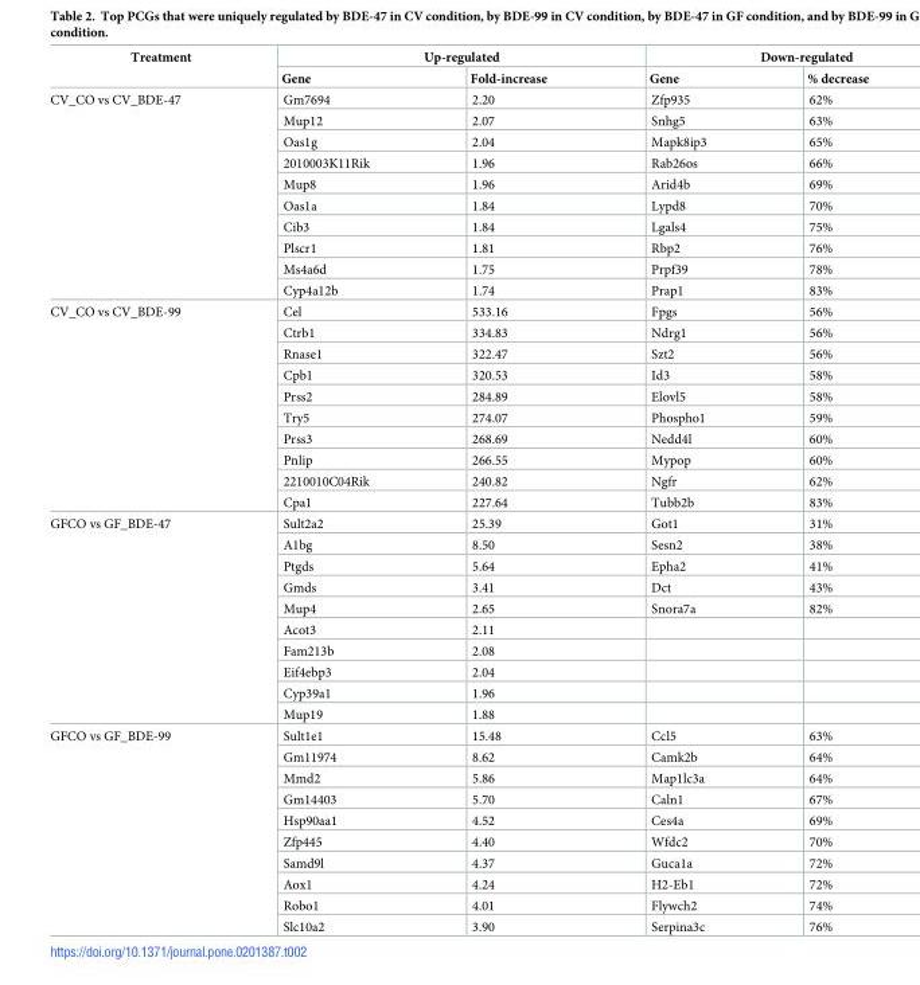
<table><thead><tr><td rowspan="2">Treatment</td><td colspan="2">Up-regulated</td><td colspan="2">Down-regulated</td></tr><tr><td>Gene</td><td>Fold-increase</td><td>Gene</td><td>% decrease</td></tr></thead><tbody><tr><td rowspan="10">CV_CO vs CV_BDE-47</td><td>Gm7694</td><td>2.20</td><td>Zfp935</td><td>62%</td></tr><tr><td>Mup12</td><td>2.07</td><td>Snhg5</td><td>63%</td></tr><tr><td>Oas1g</td><td>2.04</td><td>Mapk8ip3</td><td>65%</td></tr><tr><td>2010003K11Rik</td><td>1.96</td><td>Rab26os</td><td>66%</td></tr><tr><td>Mup8</td><td>1.96</td><td>Arid4b</td><td>69%</td></tr><tr><td>Oas1a</td><td>1.84</td><td>Lypd8</td><td>70%</td></tr><tr><td>Cib3</td><td>1.84</td><td>Lgals4</td><td>75%</td></tr><tr><td>Plscr1</td><td>1.81</td><td>Rbp2</td><td>76%</td></tr><tr><td>Ms4a6d</td><td>1.75</td><td>Prpf39</td><td>78%</td></tr><tr><td>Cyp4a12b</td><td>1.74</td><td>Prap1</td><td>83%</td></tr><tr><td rowspan="10">CV_CO vs CV_BDE-99</td><td>Cel</td><td>533.16</td><td>Fpgs</td><td>56%</td></tr><tr><td>Ctrb1</td><td>334.83</td><td>Ndrg1</td><td>56%</td></tr><tr><td>Rnase1</td><td>322.47</td><td>Szt2</td><td>56%</td></tr><tr><td>Cpb1</td><td>320.53</td><td>Id3</td><td>58%</td></tr><tr><td>Prss2</td><td>284.89</td><td>Elovl5</td><td>58%</td></tr><tr><td>Try5</td><td>274.07</td><td>Phospho1</td><td>59%</td></tr><tr><td>Prss3</td><td>268.69</td><td>Nedd4l</td><td>60%</td></tr><tr><td>Pnlip</td><td>266.55</td><td>Mypop</td><td>60%</td></tr><tr><td>2210010C04Rik</td><td>240.82</td><td>Ngfr</td><td>62%</td></tr><tr><td>Cpa1</td><td>227.64</td><td>Tubb2b</td><td>83%</td></tr><tr><td rowspan="10">GFCO vs GF_BDE-47</td><td>Sult2a2</td><td>25.39</td><td>Got1</td><td>31%</td></tr><tr><td>A1bg</td><td>8.50</td><td>Sesn2</td><td>38%</td></tr><tr><td>Ptgds</td><td>5.64</td><td>Epha2</td><td>41%</td></tr><tr><td>Gmds</td><td>3.41</td><td>Dct</td><td>43%</td></tr><tr><td>Mup4</td><td>2.65</td><td>Snora7a</td><td>82%</td></tr><tr><td>Acot3</td><td>2.11</td><td></td><td></td></tr><tr><td>Fam213b</td><td>2.08</td><td></td><td></td></tr><tr><td>Eif4ebp3</td><td>2.04</td><td></td><td></td></tr><tr><td>Cyp39a1</td><td>1.96</td><td></td><td></td></tr><tr><td>Mup19</td><td>1.88</td><td></td><td></td></tr><tr><td rowspan="10">GFCO vs GF_BDE-99</td><td>Sult1e1</td><td>15.48</td><td>Ccl5</td><td>63%</td></tr><tr><td>Gm11974</td><td>8.62</td><td>Camk2b</td><td>64%</td></tr><tr><td>Mmd2</td><td>5.86</td><td>Map1lc3a</td><td>64%</td></tr><tr><td>Gm14403</td><td>5.70</td><td>Caln1</td><td>67%</td></tr><tr><td>Hsp90aa1</td><td>4.52</td><td>Ces4a</td><td>69%</td></tr><tr><td>Zfp445</td><td>4.40</td><td>Wfdc2</td><td>70%</td></tr><tr><td>Samd9l</td><td>4.37</td><td>Guca1a</td><td>72%</td></tr><tr><td>Aox1</td><td>4.24</td><td>H2-Eb1</td><td>72%</td></tr><tr><td>Robo1</td><td>4.01</td><td>Flywch2</td><td>74%</td></tr><tr><td>Slc10a2</td><td>3.90</td><td>Serpina3c</td><td>76%</td></tr></tbody></table>